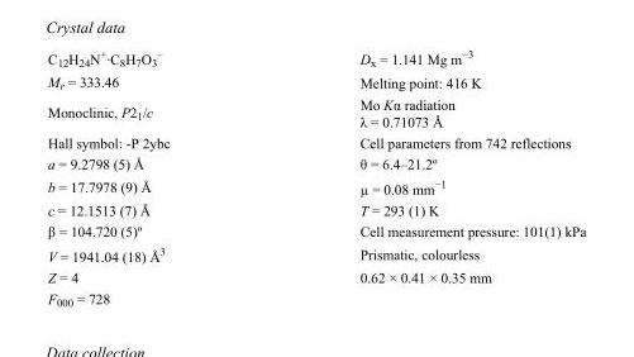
<table><tbody><tr><td>C<sub>12</sub>H<sub>24</sub>N<sup>+</sup>·C<sub>8</sub>H<sub>7</sub>O<sub>3</sub> <sup>–</sup></td><td>D<sub>x</sub> = 1.141 Mg m<sup>−3</sup></td></tr><tr><td>M<sub>r</sub> = 333.46</td><td>Melting point: 416 K</td></tr><tr><td>Monoclinic, P2<sub>1</sub>/c</td><td>Mo Kα radiation λ = 0.71073 Å</td></tr><tr><td>Hall symbol: -P 2ybc</td><td>Cell parameters from 742 reflections</td></tr><tr><td>a = 9.2798 (5) Å</td><td>θ = 6.4–21.2º</td></tr><tr><td>b = 17.7978 (9) Å</td><td>µ = 0.08 mm<sup>−1</sup></td></tr><tr><td>c = 12.1513 (7) Å</td><td>T = 293 (1) K</td></tr><tr><td>β = 104.720 (5)º</td><td>Cell measurement pressure: 101(1) kPa</td></tr><tr><td>V = 1941.04 (18) Å<sup>3</sup></td><td>Prismatic, colourless</td></tr><tr><td>Z = 4</td><td>0.62 × 0.41 × 0.35 mm</td></tr><tr><td>F<sub>000</sub> = 728</td><td></td></tr></tbody></table>